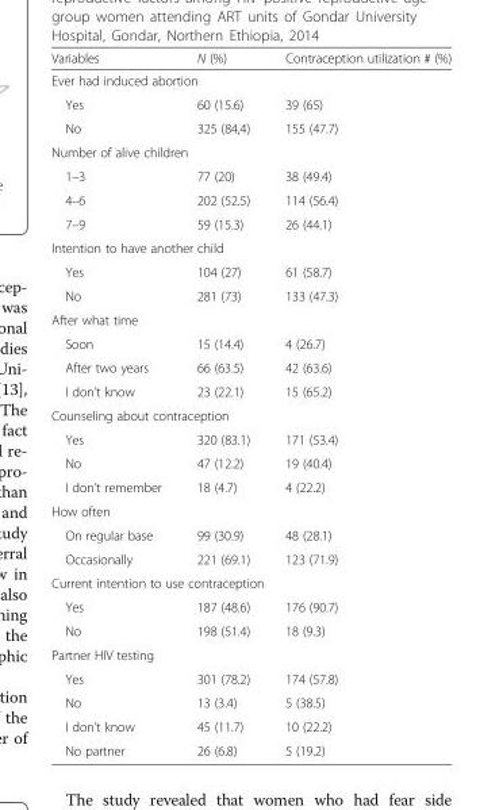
<table><thead><tr><td>Variables</td><td>N (%)</td><td>Contraception utilization # (%)</td></tr></thead><tbody><tr><td colspan="3">Ever had induced abortion</td></tr><tr><td>Yes</td><td>60 (15.6)</td><td>39 (65)</td></tr><tr><td>No</td><td>325 (84,4)</td><td>155 (47.7)</td></tr><tr><td colspan="3">Number of alive children</td></tr><tr><td>1–3</td><td>77 (20)</td><td>38 (49.4)</td></tr><tr><td>4–6</td><td>202 (52.5)</td><td>114 (56.4)</td></tr><tr><td>7–9</td><td>59 (15.3)</td><td>26 (44.1)</td></tr><tr><td colspan="3">Intention to have another child</td></tr><tr><td>Yes</td><td>104 (27)</td><td>61 (58.7)</td></tr><tr><td>No</td><td>281 (73)</td><td>133 (47.3)</td></tr><tr><td colspan="3">After what time</td></tr><tr><td>Soon</td><td>15 (14.4)</td><td>4 (26.7)</td></tr><tr><td>After two years</td><td>66 (63.5)</td><td>42 (63.6)</td></tr><tr><td>I don’t know</td><td>23 (22.1)</td><td>15 (65.2)</td></tr><tr><td colspan="3">Counseling about contraception</td></tr><tr><td>Yes</td><td>320 (83.1)</td><td>171 (53.4)</td></tr><tr><td>No</td><td>47 (12.2)</td><td>19 (40.4)</td></tr><tr><td>I don’t remember</td><td>18 (4.7)</td><td>4 (22.2)</td></tr><tr><td colspan="3">How often</td></tr><tr><td>On regular base</td><td>99 (30.9)</td><td>48 (28.1)</td></tr><tr><td>Occasionally</td><td>221 (69.1)</td><td>123 (71.9)</td></tr><tr><td colspan="3">Current intention to use contraception</td></tr><tr><td>Yes</td><td>187 (48.6)</td><td>176 (90.7)</td></tr><tr><td>No</td><td>198 (51.4)</td><td>18 (9.3)</td></tr><tr><td colspan="3">Partner HIV testing</td></tr><tr><td>Yes</td><td>301 (78.2)</td><td>174 (57.8)</td></tr><tr><td>No</td><td>13 (3.4)</td><td>5 (38.5)</td></tr><tr><td>I don’t know</td><td>45 (11.7)</td><td>10 (22.2)</td></tr><tr><td>No partner</td><td>26 (6.8)</td><td>5 (19.2)</td></tr></tbody></table>